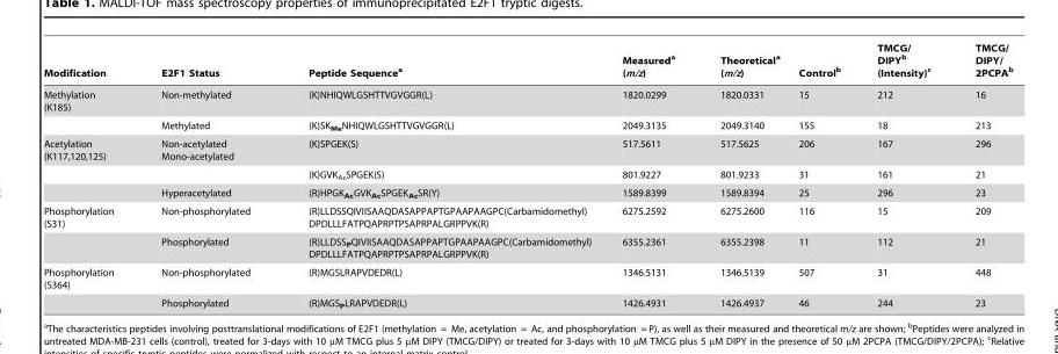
<table><thead><tr><td>Modification</td><td>E2F1 Status</td><td>Peptide Sequence<sup>a</sup></td><td>Measured<sup>a</sup> (m/z)</td><td>Theoretical<sup>a</sup> (m/z)</td><td>Control<sup>b</sup></td><td>TMCG/ DIPY<sup>b</sup> (Intensity)<sup>c</sup></td><td>TMCG/ DIPY/ 2PCPA<sup>b</sup></td></tr></thead><tbody><tr><td rowspan="2">Methylation (K185)</td><td>Non-methylated</td><td>(K)NHIQWLGSHTTVGVGGR(L)</td><td>1820.0299</td><td>1820.0331</td><td>15</td><td>212</td><td>16</td></tr><tr><td>Methylated</td><td>(K)SK<sub>Me</sub>NHIQWLGSHTTVGVGGR(L)</td><td>2049.3135</td><td>2049.3140</td><td>155</td><td>18</td><td>213</td></tr><tr><td rowspan="3">Acetylation (K117,120,125)</td><td>Non-acetylated Mono-acetylated</td><td>(K)SPGEK(S)</td><td>517.5611</td><td>517.5625</td><td>206</td><td>167</td><td>296</td></tr><tr><td></td><td>(K)GVK<sub>Ac</sub>SPGEK(S)</td><td>801.9227</td><td>801.9233</td><td>31</td><td>161</td><td>21</td></tr><tr><td>Hyperacetylated</td><td>(R)HPGK<sub>Ac</sub>GVK<sub>Ac</sub>SPGEK<sub>Ac</sub>SR(Y)</td><td>1589.8399</td><td>1589.8394</td><td>25</td><td>296</td><td>23</td></tr><tr><td rowspan="2">Phosphorylation (S31)</td><td>Non-phosphorylated</td><td>(R)LLDSSQIVIISAAQDASAPPAPTGPAAPAAGPC(Carbamidomethyl) DPDLLLFATPQAPRPTPSAPRPALGRPPVK(R)</td><td>6275.2592</td><td>6275.2600</td><td>116</td><td>15</td><td>209</td></tr><tr><td>Phosphorylated</td><td>(R)LLDSS<sub>P</sub>QIVIISAAQDASAPPAPTGPAAPAAGPC(Carbamidomethyl) DPDLLLFATPQAPRPTPSAPRPALGRPPVK(R)</td><td>6355.2361</td><td>6355.2398</td><td>11</td><td>112</td><td>21</td></tr><tr><td rowspan="2">Phosphorylation (S364)</td><td>Non-phosphorylated</td><td>(R)MGSLRAPVDEDR(L)</td><td>1346.5131</td><td>1346.5139</td><td>507</td><td>31</td><td>448</td></tr><tr><td>Phosphorylated</td><td>(R)MGS<sub>P</sub>LRAPVDEDR(L)</td><td>1426.4931</td><td>1426.4937</td><td>46</td><td>244</td><td>23</td></tr></tbody></table>